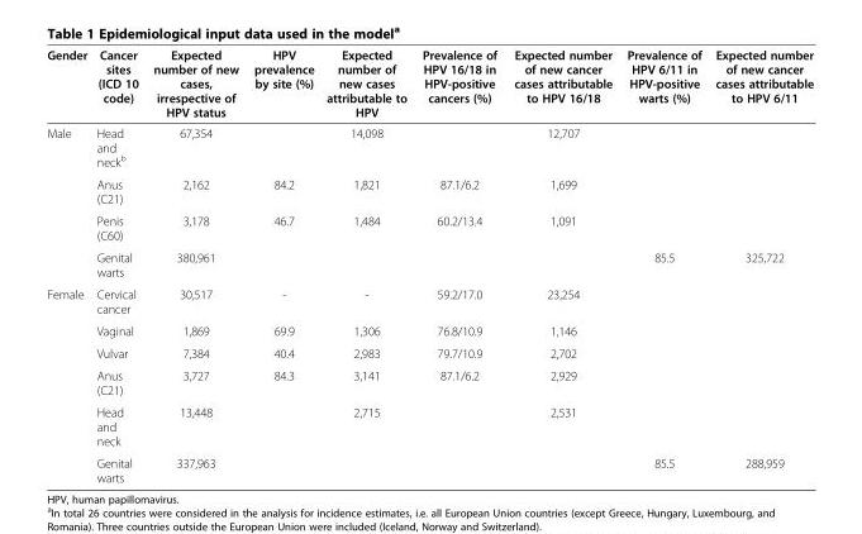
<table><thead><tr><td>Gender</td><td>Cancer sites (ICD 10 code)</td><td>Expected number of new cases, irrespective of HPV status</td><td>HPV prevalence by site (%)</td><td>Expected number of new cases attributable to HPV</td><td>Prevalence of HPV 16/18 in HPV-positive cancers (%)</td><td>Expected number of new cancer cases attributable to HPV 16/18</td><td>Prevalence of HPV 6/11 in HPV-positive warts (%)</td><td>Expected number of new cancer cases attributable to HPV 6/11</td></tr></thead><tbody><tr><td rowspan="4">Male</td><td>Head and neck<sup>b</sup></td><td>67,354</td><td></td><td>14,098</td><td></td><td>12,707</td><td></td><td></td></tr><tr><td>Anus (C21)</td><td>2,162</td><td>84.2</td><td>1,821</td><td>87.1/6.2</td><td>1,699</td><td></td><td></td></tr><tr><td>Penis (C60)</td><td>3,178</td><td>46.7</td><td>1,484</td><td>60.2/13.4</td><td>1,091</td><td></td><td></td></tr><tr><td>Genital warts</td><td>380,961</td><td></td><td></td><td></td><td></td><td>85.5</td><td>325,722</td></tr><tr><td rowspan="6">Female</td><td>Cervical cancer</td><td>30,517</td><td>-</td><td>-</td><td>59.2/17.0</td><td>23,254</td><td></td><td></td></tr><tr><td>Vaginal</td><td>1,869</td><td>69.9</td><td>1,306</td><td>76.8/10.9</td><td>1,146</td><td></td><td></td></tr><tr><td>Vulvar</td><td>7,384</td><td>40.4</td><td>2,983</td><td>79.7/10.9</td><td>2,702</td><td></td><td></td></tr><tr><td>Anus (C21)</td><td>3,727</td><td>84.3</td><td>3,141</td><td>87.1/6.2</td><td>2,929</td><td></td><td></td></tr><tr><td>Head and neck</td><td>13,448</td><td></td><td>2,715</td><td></td><td>2,531</td><td></td><td></td></tr><tr><td>Genital warts</td><td>337,963</td><td></td><td></td><td></td><td></td><td>85.5</td><td>288,959</td></tr></tbody></table>